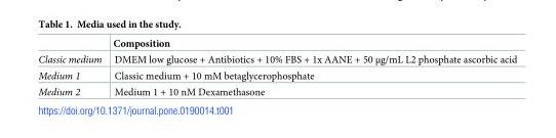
<table><thead><tr><td></td><td>Composition</td></tr></thead><tbody><tr><td>Classic medium</td><td>DMEM low glucose + Antibiotics + 10% FBS + 1x AANE + 50 μg/mL L2 phosphate ascorbic acid</td></tr><tr><td>Medium 1</td><td>Classic medium + 10 mM betaglycerophosphate</td></tr><tr><td>Medium 2</td><td>Medium 1 + 10 nM Dexamethasone</td></tr></tbody></table>